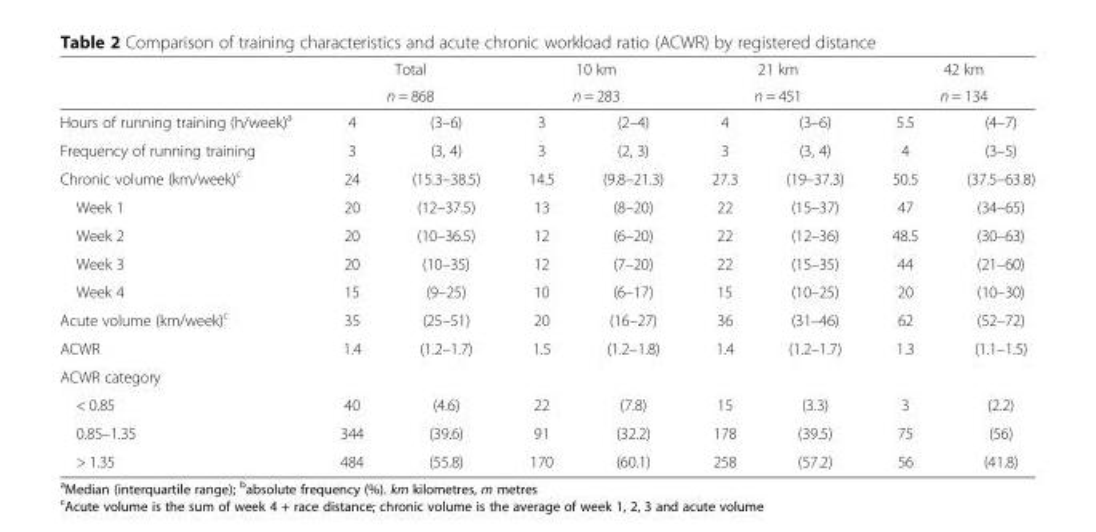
<table><thead><tr><td rowspan="3">Hours of running training (h/week)<sup>a</sup></td><td rowspan="2" colspan="2">Total n = 868</td><td rowspan="2" colspan="2">10 km n = 283</td><td rowspan="2" colspan="2">21 km n = 451</td><td rowspan="2" colspan="2">42 km n = 134</td></tr><tr></tr><tr><td>4</td><td>(3–6)</td><td>3</td><td>(2–4)</td><td>4</td><td>(3–6)</td><td>5.5</td><td>(4–7)</td></tr></thead><tbody><tr><td>Frequency of running training</td><td>3</td><td>(3, 4)</td><td>3</td><td>(2, 3)</td><td>3</td><td>(3, 4)</td><td>4</td><td>(3–5)</td></tr><tr><td>Chronic volume (km/week)<sup>c</sup></td><td>24</td><td>(15.3–38.5)</td><td>14.5</td><td>(9.8–21.3)</td><td>27.3</td><td>(19–37.3)</td><td>50.5</td><td>(37.5–63.8)</td></tr><tr><td>Week 1</td><td>20</td><td>(12–37.5)</td><td>13</td><td>(8–20)</td><td>22</td><td>(15–37)</td><td>47</td><td>(34–65)</td></tr><tr><td>Week 2</td><td>20</td><td>(10–36.5)</td><td>12</td><td>(6–20)</td><td>22</td><td>(12–36)</td><td>48.5</td><td>(30–63)</td></tr><tr><td>Week 3</td><td>20</td><td>(10–35)</td><td>12</td><td>(7–20)</td><td>22</td><td>(15–35)</td><td>44</td><td>(21–60)</td></tr><tr><td>Week 4</td><td>15</td><td>(9–25)</td><td>10</td><td>(6–17)</td><td>15</td><td>(10–25)</td><td>20</td><td>(10–30)</td></tr><tr><td>Acute volume (km/week)<sup>c</sup></td><td>35</td><td>(25–51)</td><td>20</td><td>(16–27)</td><td>36</td><td>(31–46)</td><td>62</td><td>(52–72)</td></tr><tr><td>ACWR</td><td>1.4</td><td>(1.2–1.7)</td><td>1.5</td><td>(1.2–1.8)</td><td>1.4</td><td>(1.2–1.7)</td><td>1.3</td><td>(1.1–1.5)</td></tr><tr><td colspan="9">ACWR category</td></tr><tr><td>&lt; 0.85</td><td>40</td><td>(4.6)</td><td>22</td><td>(7.8)</td><td>15</td><td>(3.3)</td><td>3</td><td>(2.2)</td></tr><tr><td>0.85–1.35</td><td>344</td><td>(39.6)</td><td>91</td><td>(32.2)</td><td>178</td><td>(39.5)</td><td>75</td><td>(56)</td></tr><tr><td>&gt; 1.35</td><td>484</td><td>(55.8)</td><td>170</td><td>(60.1)</td><td>258</td><td>(57.2)</td><td>56</td><td>(41.8)</td></tr></tbody></table>